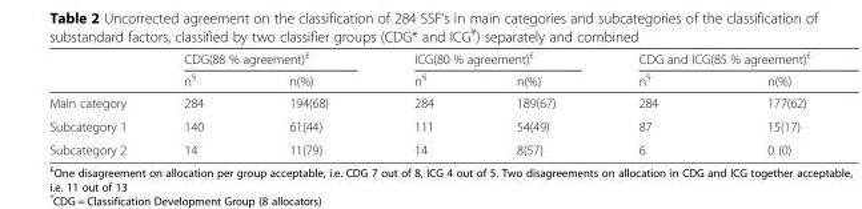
<table><thead><tr><td rowspan="2"></td><td colspan="2">CDG(88 % agreement)<sup>£</sup></td><td colspan="2">ICG(80 % agreement)<sup>£</sup></td><td colspan="2">CDG and ICG(85 % agreement)<sup>£</sup></td></tr><tr><td>n<sup>§</sup></td><td>n(%)</td><td>n<sup>§</sup></td><td>n(%)</td><td>n<sup>§</sup></td><td>n(%)</td></tr></thead><tbody><tr><td>Main category</td><td>284</td><td>194(68)</td><td>284</td><td>189(67)</td><td>284</td><td>177(62)</td></tr><tr><td>Subcategory 1</td><td>140</td><td>61(44)</td><td>111</td><td>54(49)</td><td>87</td><td>15(17)</td></tr><tr><td>Subcategory 2</td><td>14</td><td>11(79)</td><td>14</td><td>8(57)</td><td>6</td><td>0 (0)</td></tr></tbody></table>